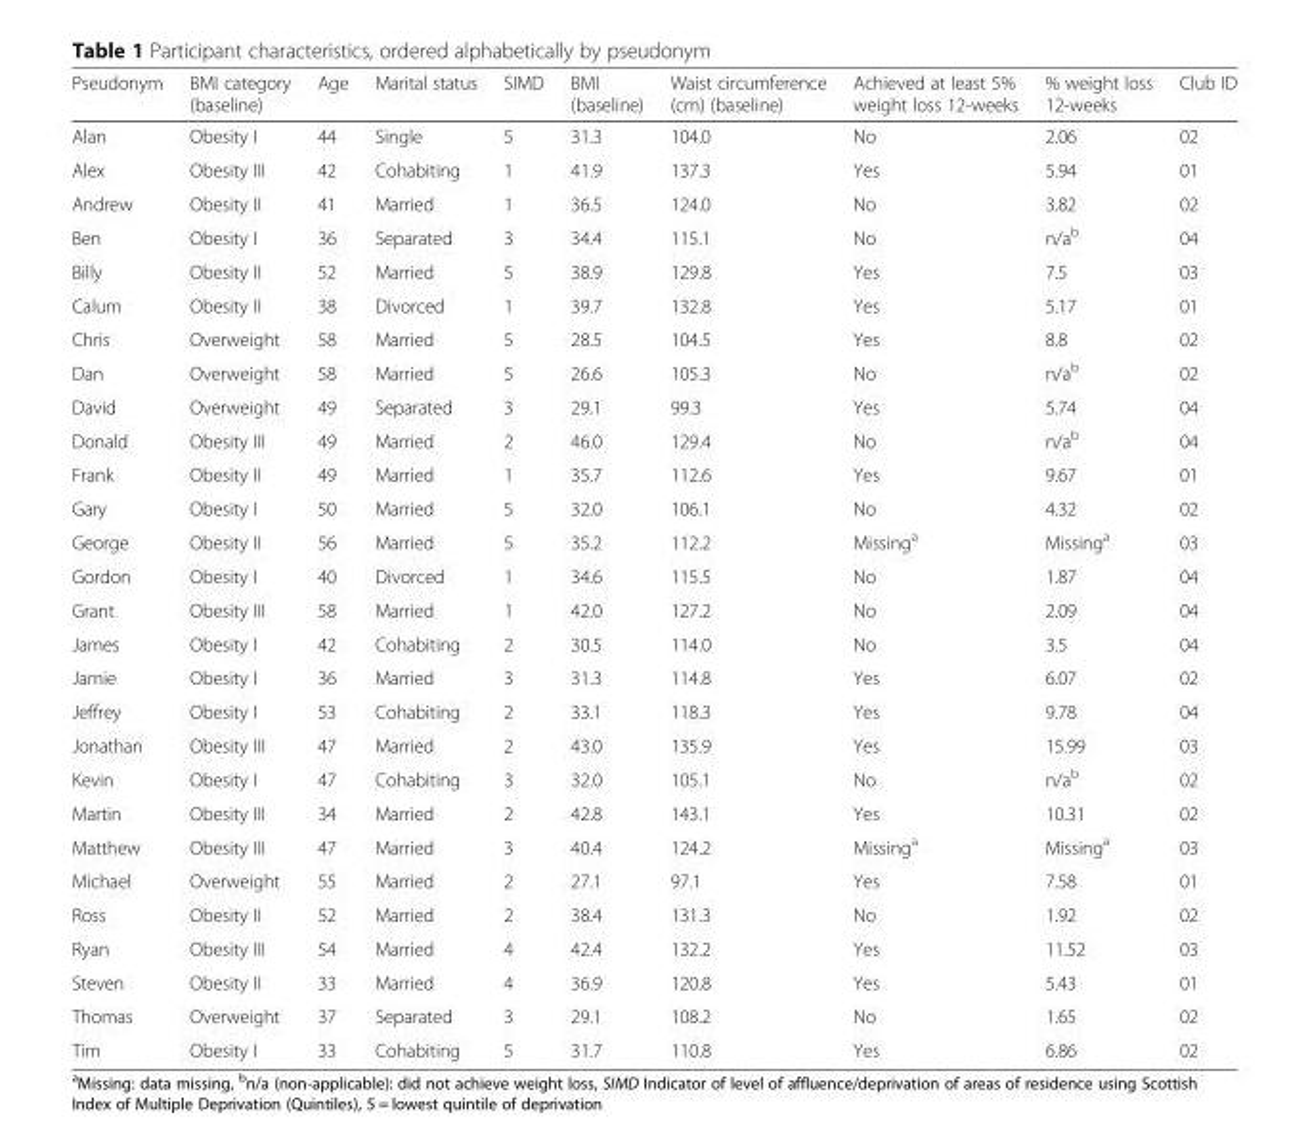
<table><thead><tr><td>Pseudonym</td><td>BMI category (baseline)</td><td>Age</td><td>Marital status</td><td>SIMD</td><td>BMI (baseline)</td><td>Waist circumference (cm) (baseline)</td><td>Achieved at least 5% weight loss 12-weeks</td><td>% weight loss 12-weeks</td><td>Club ID</td></tr></thead><tbody><tr><td>Alan</td><td>Obesity I</td><td>44</td><td>Single</td><td>5</td><td>31.3</td><td>104.0</td><td>No</td><td>2.06</td><td>02</td></tr><tr><td>Alex</td><td>Obesity III</td><td>42</td><td>Cohabiting</td><td>1</td><td>41.9</td><td>137.3</td><td>Yes</td><td>5.94</td><td>01</td></tr><tr><td>Andrew</td><td>Obesity II</td><td>41</td><td>Married</td><td>1</td><td>36.5</td><td>124.0</td><td>No</td><td>3.82</td><td>02</td></tr><tr><td>Ben</td><td>Obesity I</td><td>36</td><td>Separated</td><td>3</td><td>34.4</td><td>115.1</td><td>No</td><td>n/a<sup>b</sup></td><td>04</td></tr><tr><td>Billy</td><td>Obesity II</td><td>52</td><td>Married</td><td>5</td><td>38.9</td><td>129.8</td><td>Yes</td><td>7.5</td><td>03</td></tr><tr><td>Calum</td><td>Obesity II</td><td>38</td><td>Divorced</td><td>1</td><td>39.7</td><td>132.8</td><td>Yes</td><td>5.17</td><td>01</td></tr><tr><td>Chris</td><td>Overweight</td><td>58</td><td>Married</td><td>5</td><td>28.5</td><td>104.5</td><td>Yes</td><td>8.8</td><td>02</td></tr><tr><td>Dan</td><td>Overweight</td><td>58</td><td>Married</td><td>5</td><td>26.6</td><td>105.3</td><td>No</td><td>n/a<sup>b</sup></td><td>02</td></tr><tr><td>David</td><td>Overweight</td><td>49</td><td>Separated</td><td>3</td><td>29.1</td><td>99.3</td><td>Yes</td><td>5.74</td><td>04</td></tr><tr><td>Donald</td><td>Obesity III</td><td>49</td><td>Married</td><td>2</td><td>46.0</td><td>129.4</td><td>No</td><td>n/a<sup>b</sup></td><td>04</td></tr><tr><td>Frank</td><td>Obesity II</td><td>49</td><td>Married</td><td>1</td><td>35.7</td><td>112.6</td><td>Yes</td><td>9.67</td><td>01</td></tr><tr><td>Gary</td><td>Obesity I</td><td>50</td><td>Married</td><td>5</td><td>32.0</td><td>106.1</td><td>No</td><td>4.32</td><td>02</td></tr><tr><td>George</td><td>Obesity II</td><td>56</td><td>Married</td><td>5</td><td>35.2</td><td>112.2</td><td>Missing<sup>a</sup></td><td>Missing<sup>a</sup></td><td>03</td></tr><tr><td>Gordon</td><td>Obesity I</td><td>40</td><td>Divorced</td><td>1</td><td>34.6</td><td>115.5</td><td>No</td><td>1.87</td><td>04</td></tr><tr><td>Grant</td><td>Obesity III</td><td>58</td><td>Married</td><td>1</td><td>42.0</td><td>127.2</td><td>No</td><td>2.09</td><td>04</td></tr><tr><td>James</td><td>Obesity I</td><td>42</td><td>Cohabiting</td><td>2</td><td>30.5</td><td>114.0</td><td>No</td><td>3.5</td><td>04</td></tr><tr><td>Jamie</td><td>Obesity I</td><td>36</td><td>Married</td><td>3</td><td>31.3</td><td>114.8</td><td>Yes</td><td>6.07</td><td>02</td></tr><tr><td>Jeffrey</td><td>Obesity I</td><td>53</td><td>Cohabiting</td><td>2</td><td>33.1</td><td>118.3</td><td>Yes</td><td>9.78</td><td>04</td></tr><tr><td>Jonathan</td><td>Obesity III</td><td>47</td><td>Married</td><td>2</td><td>43.0</td><td>135.9</td><td>Yes</td><td>15.99</td><td>03</td></tr><tr><td>Kevin</td><td>Obesity I</td><td>47</td><td>Cohabiting</td><td>3</td><td>32.0</td><td>105.1</td><td>No</td><td>n/a<sup>b</sup></td><td>02</td></tr><tr><td>Martin</td><td>Obesity III</td><td>34</td><td>Married</td><td>2</td><td>42.8</td><td>143.1</td><td>Yes</td><td>10.31</td><td>02</td></tr><tr><td>Matthew</td><td>Obesity III</td><td>47</td><td>Married</td><td>3</td><td>40.4</td><td>124.2</td><td>Missing<sup>a</sup></td><td>Missing<sup>a</sup></td><td>03</td></tr><tr><td>Michael</td><td>Overweight</td><td>55</td><td>Married</td><td>2</td><td>27.1</td><td>97.1</td><td>Yes</td><td>7.58</td><td>01</td></tr><tr><td>Ross</td><td>Obesity II</td><td>52</td><td>Married</td><td>2</td><td>38.4</td><td>131.3</td><td>No</td><td>1.92</td><td>02</td></tr><tr><td>Ryan</td><td>Obesity III</td><td>54</td><td>Married</td><td>4</td><td>42.4</td><td>132.2</td><td>Yes</td><td>11.52</td><td>03</td></tr><tr><td>Steven</td><td>Obesity II</td><td>33</td><td>Married</td><td>4</td><td>36.9</td><td>120.8</td><td>Yes</td><td>5.43</td><td>01</td></tr><tr><td>Thomas</td><td>Overweight</td><td>37</td><td>Separated</td><td>3</td><td>29.1</td><td>108.2</td><td>No</td><td>1.65</td><td>02</td></tr><tr><td>Tim</td><td>Obesity I</td><td>33</td><td>Cohabiting</td><td>5</td><td>31.7</td><td>110.8</td><td>Yes</td><td>6.86</td><td>02</td></tr></tbody></table>